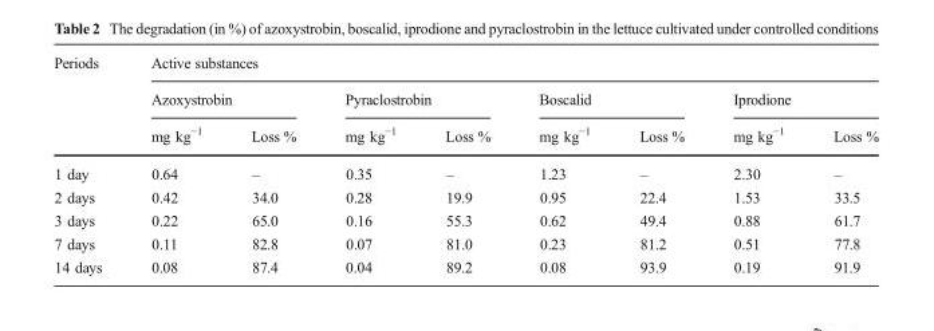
<table><thead><tr><td rowspan="3">Periods</td><td colspan="8">Active substances</td></tr><tr><td colspan="2">Azoxystrobin</td><td colspan="2">Pyraclostrobin</td><td colspan="2">Boscalid</td><td colspan="2">Iprodione</td></tr><tr><td>mg kg<sup>−1</sup></td><td>Loss %</td><td>mg kg<sup>−1</sup></td><td>Loss %</td><td>mg kg<sup>−1</sup></td><td>Loss %</td><td>mg kg<sup>−1</sup></td><td>Loss %</td></tr></thead><tbody><tr><td>1 day</td><td>0.64</td><td>–</td><td>0.35</td><td>–</td><td>1.23</td><td>–</td><td>2.30</td><td>–</td></tr><tr><td>2 days</td><td>0.42</td><td>34.0</td><td>0.28</td><td>19.9</td><td>0.95</td><td>22.4</td><td>1.53</td><td>33.5</td></tr><tr><td>3 days</td><td>0.22</td><td>65.0</td><td>0.16</td><td>55.3</td><td>0.62</td><td>49.4</td><td>0.88</td><td>61.7</td></tr><tr><td>7 days</td><td>0.11</td><td>82.8</td><td>0.07</td><td>81.0</td><td>0.23</td><td>81.2</td><td>0.51</td><td>77.8</td></tr><tr><td>14 days</td><td>0.08</td><td>87.4</td><td>0.04</td><td>89.2</td><td>0.08</td><td>93.9</td><td>0.19</td><td>91.9</td></tr></tbody></table>